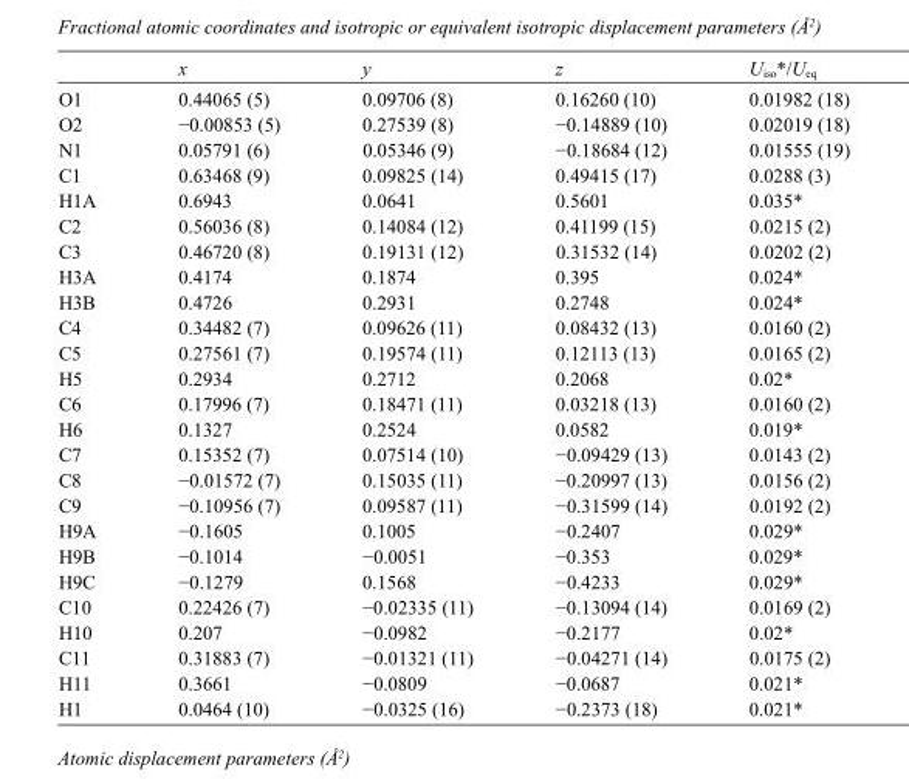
<table><thead><tr><td></td><td>x</td><td>y</td><td>z</td><td>U<sub>iso</sub>*/U<sub>eq</sub></td></tr></thead><tbody><tr><td>O1</td><td>0.44065 (5)</td><td>0.09706 (8)</td><td>0.16260 (10)</td><td>0.01982 (18)</td></tr><tr><td>O2</td><td>−0.00853 (5)</td><td>0.27539 (8)</td><td>−0.14889 (10)</td><td>0.02019 (18)</td></tr><tr><td>N1</td><td>0.05791 (6)</td><td>0.05346 (9)</td><td>−0.18684 (12)</td><td>0.01555 (19)</td></tr><tr><td>C1</td><td>0.63468 (9)</td><td>0.09825 (14)</td><td>0.49415 (17)</td><td>0.0288 (3)</td></tr><tr><td>H1A</td><td>0.6943</td><td>0.0641</td><td>0.5601</td><td>0.035*</td></tr><tr><td>C2</td><td>0.56036 (8)</td><td>0.14084 (12)</td><td>0.41199 (15)</td><td>0.0215 (2)</td></tr><tr><td>C3</td><td>0.46720 (8)</td><td>0.19131 (12)</td><td>0.31532 (14)</td><td>0.0202 (2)</td></tr><tr><td>H3A</td><td>0.4174</td><td>0.1874</td><td>0.395</td><td>0.024*</td></tr><tr><td>H3B</td><td>0.4726</td><td>0.2931</td><td>0.2748</td><td>0.024*</td></tr><tr><td>C4</td><td>0.34482 (7)</td><td>0.09626 (11)</td><td>0.08432 (13)</td><td>0.0160 (2)</td></tr><tr><td>C5</td><td>0.27561 (7)</td><td>0.19574 (11)</td><td>0.12113 (13)</td><td>0.0165 (2)</td></tr><tr><td>H5</td><td>0.2934</td><td>0.2712</td><td>0.2068</td><td>0.02*</td></tr><tr><td>C6</td><td>0.17996 (7)</td><td>0.18471 (11)</td><td>0.03218 (13)</td><td>0.0160 (2)</td></tr><tr><td>H6</td><td>0.1327</td><td>0.2524</td><td>0.0582</td><td>0.019*</td></tr><tr><td>C7</td><td>0.15352 (7)</td><td>0.07514 (10)</td><td>−0.09429 (13)</td><td>0.0143 (2)</td></tr><tr><td>C8</td><td>−0.01572 (7)</td><td>0.15035 (11)</td><td>−0.20997 (13)</td><td>0.0156 (2)</td></tr><tr><td>C9</td><td>−0.10956 (7)</td><td>0.09587 (11)</td><td>−0.31599 (14)</td><td>0.0192 (2)</td></tr><tr><td>H9A</td><td>−0.1605</td><td>0.1005</td><td>−0.2407</td><td>0.029*</td></tr><tr><td>H9B</td><td>−0.1014</td><td>−0.0051</td><td>−0.353</td><td>0.029*</td></tr><tr><td>H9C</td><td>−0.1279</td><td>0.1568</td><td>−0.4233</td><td>0.029*</td></tr><tr><td>C10</td><td>0.22426 (7)</td><td>−0.02335 (11)</td><td>−0.13094 (14)</td><td>0.0169 (2)</td></tr><tr><td>H10</td><td>0.207</td><td>−0.0982</td><td>−0.2177</td><td>0.02*</td></tr><tr><td>C11</td><td>0.31883 (7)</td><td>−0.01321 (11)</td><td>−0.04271 (14)</td><td>0.0175 (2)</td></tr><tr><td>H11</td><td>0.3661</td><td>−0.0809</td><td>−0.0687</td><td>0.021*</td></tr><tr><td>H1</td><td>0.0464 (10)</td><td>−0.0325 (16)</td><td>−0.2373 (18)</td><td>0.021*</td></tr></tbody></table>